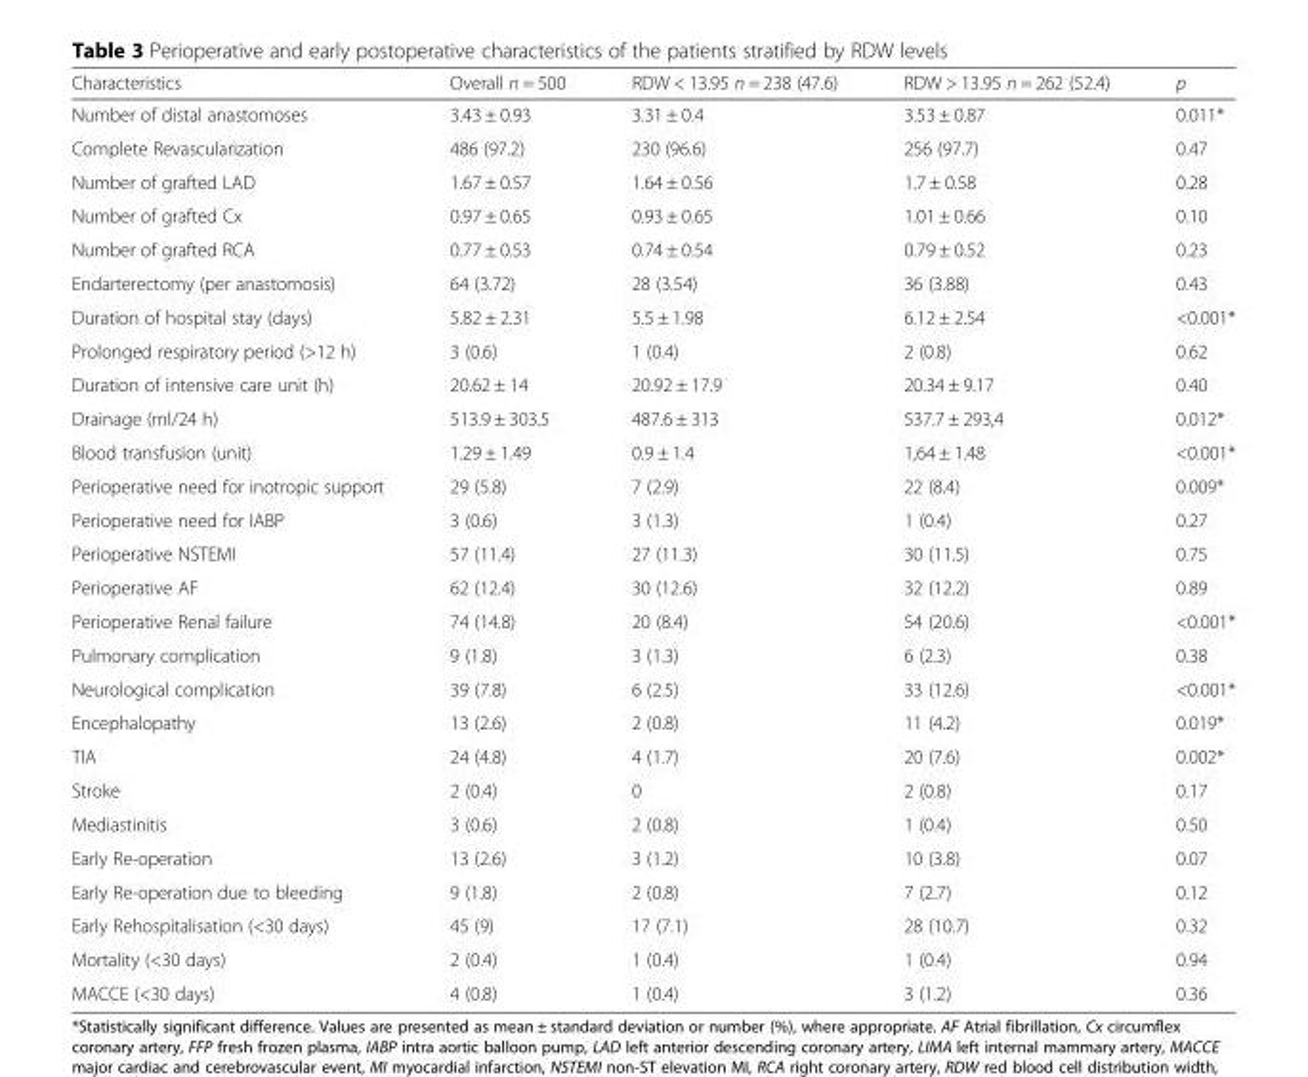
<table><thead><tr><td>Characteristics</td><td>Overall n = 500</td><td>RDW &lt; 13.95 n = 238 (47.6)</td><td>RDW &gt; 13.95 n = 262 (52.4)</td><td>p</td></tr></thead><tbody><tr><td>Number of distal anastomoses</td><td>3.43 ± 0.93</td><td>3.31 ± 0.4</td><td>3.53 ± 0.87</td><td>0.011*</td></tr><tr><td>Complete Revascularization</td><td>486 (97.2)</td><td>230 (96.6)</td><td>256 (97.7)</td><td>0.47</td></tr><tr><td>Number of grafted LAD</td><td>1.67 ± 0.57</td><td>1.64 ± 0.56</td><td>1.7 ± 0.58</td><td>0.28</td></tr><tr><td>Number of grafted Cx</td><td>0.97 ± 0.65</td><td>0.93 ± 0.65</td><td>1.01 ± 0.66</td><td>0.10</td></tr><tr><td>Number of grafted RCA</td><td>0.77 ± 0.53</td><td>0.74 ± 0.54</td><td>0.79 ± 0.52</td><td>0.23</td></tr><tr><td>Endarterectomy (per anastomosis)</td><td>64 (3.72)</td><td>28 (3.54)</td><td>36 (3.88)</td><td>0.43</td></tr><tr><td>Duration of hospital stay (days)</td><td>5.82 ± 2.31</td><td>5.5 ± 1.98</td><td>6.12 ± 2.54</td><td>&lt;0.001*</td></tr><tr><td>Prolonged respiratory period (&gt;12 h)</td><td>3 (0.6)</td><td>1 (0.4)</td><td>2 (0.8)</td><td>0.62</td></tr><tr><td>Duration of intensive care unit (h)</td><td>20.62 ± 14</td><td>20.92 ± 17.9</td><td>20.34 ± 9.17</td><td>0.40</td></tr><tr><td>Drainage (ml/24 h)</td><td>513.9 ± 303.5</td><td>487.6 ± 313</td><td>537.7 ± 293,4</td><td>0.012*</td></tr><tr><td>Blood transfusion (unit)</td><td>1.29 ± 1.49</td><td>0.9 ± 1.4</td><td>1,64 ± 1.48</td><td>&lt;0.001*</td></tr><tr><td>Perioperative need for inotropic support</td><td>29 (5.8)</td><td>7 (2.9)</td><td>22 (8.4)</td><td>0.009*</td></tr><tr><td>Perioperative need for IABP</td><td>3 (0.6)</td><td>3 (1.3)</td><td>1 (0.4)</td><td>0.27</td></tr><tr><td>Perioperative NSTEMI</td><td>57 (11.4)</td><td>27 (11.3)</td><td>30 (11.5)</td><td>0.75</td></tr><tr><td>Perioperative AF</td><td>62 (12.4)</td><td>30 (12.6)</td><td>32 (12.2)</td><td>0.89</td></tr><tr><td>Perioperative Renal failure</td><td>74 (14.8)</td><td>20 (8.4)</td><td>54 (20.6)</td><td>&lt;0.001*</td></tr><tr><td>Pulmonary complication</td><td>9 (1.8)</td><td>3 (1.3)</td><td>6 (2.3)</td><td>0.38</td></tr><tr><td>Neurological complication</td><td>39 (7.8)</td><td>6 (2.5)</td><td>33 (12.6)</td><td>&lt;0.001*</td></tr><tr><td>Encephalopathy</td><td>13 (2.6)</td><td>2 (0.8)</td><td>11 (4.2)</td><td>0.019*</td></tr><tr><td>TIA</td><td>24 (4.8)</td><td>4 (1.7)</td><td>20 (7.6)</td><td>0.002*</td></tr><tr><td>Stroke</td><td>2 (0.4)</td><td>0</td><td>2 (0.8)</td><td>0.17</td></tr><tr><td>Mediastinitis</td><td>3 (0.6)</td><td>2 (0.8)</td><td>1 (0.4)</td><td>0.50</td></tr><tr><td>Early Re-operation</td><td>13 (2.6)</td><td>3 (1.2)</td><td>10 (3.8)</td><td>0.07</td></tr><tr><td>Early Re-operation due to bleeding</td><td>9 (1.8)</td><td>2 (0.8)</td><td>7 (2.7)</td><td>0.12</td></tr><tr><td>Early Rehospitalisation (&lt;30 days)</td><td>45 (9)</td><td>17 (7.1)</td><td>28 (10.7)</td><td>0.32</td></tr><tr><td>Mortality (&lt;30 days)</td><td>2 (0.4)</td><td>1 (0.4)</td><td>1 (0.4)</td><td>0.94</td></tr><tr><td>MACCE (&lt;30 days)</td><td>4 (0.8)</td><td>1 (0.4)</td><td>3 (1.2)</td><td>0.36</td></tr></tbody></table>